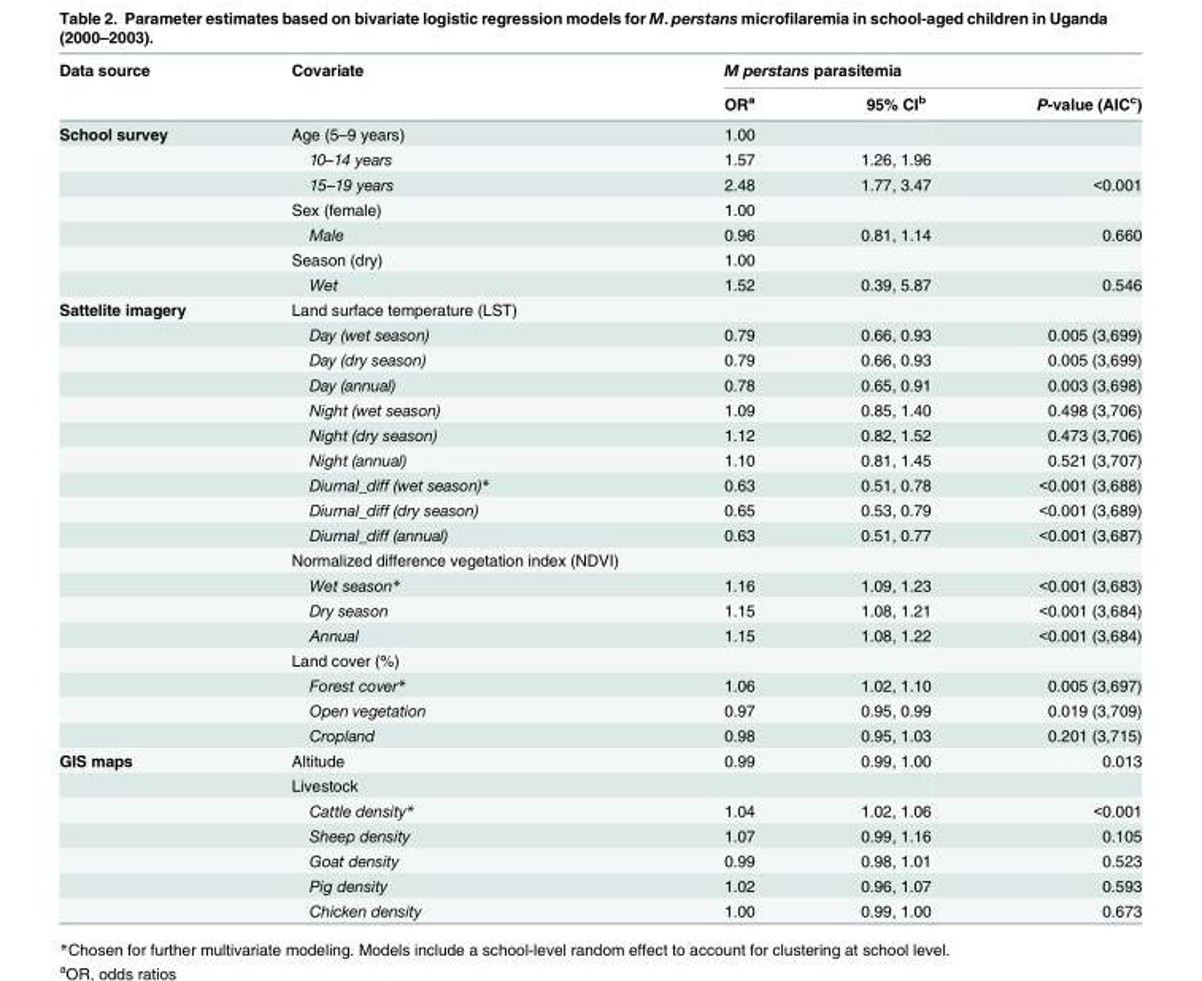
<table><thead><tr><td rowspan="2">Data source</td><td rowspan="2">Covariate</td><td colspan="3">M perstans parasitemia</td></tr><tr><td>OR<sup>a</sup></td><td>95% CI<sup>b</sup></td><td>P-value (AIC<sup>c</sup>)</td></tr></thead><tbody><tr><td rowspan="7">School survey</td><td>Age (5–9 years)</td><td>1.00</td><td></td><td></td></tr><tr><td>10–14 years</td><td>1.57</td><td>1.26, 1.96</td><td></td></tr><tr><td>15–19 years</td><td>2.48</td><td>1.77, 3.47</td><td>&lt;0.001</td></tr><tr><td>Sex (female)</td><td>1.00</td><td></td><td></td></tr><tr><td>Male</td><td>0.96</td><td>0.81, 1.14</td><td>0.660</td></tr><tr><td>Season (dry)</td><td>1.00</td><td></td><td></td></tr><tr><td>Wet</td><td>1.52</td><td>0.39, 5.87</td><td>0.546</td></tr><tr><td rowspan="18">Sattelite imagery</td><td>Land surface temperature (LST)</td><td></td><td></td><td></td></tr><tr><td>Day (wet season)</td><td>0.79</td><td>0.66, 0.93</td><td>0.005 (3,699)</td></tr><tr><td>Day (dry season)</td><td>0.79</td><td>0.66, 0.93</td><td>0.005 (3,699)</td></tr><tr><td>Day (annual)</td><td>0.78</td><td>0.65, 0.91</td><td>0.003 (3,698)</td></tr><tr><td>Night (wet season)</td><td>1.09</td><td>0.85, 1.40</td><td>0.498 (3,706)</td></tr><tr><td>Night (dry season)</td><td>1.12</td><td>0.82, 1.52</td><td>0.473 (3,706)</td></tr><tr><td>Night (annual)</td><td>1.10</td><td>0.81, 1.45</td><td>0.521 (3,707)</td></tr><tr><td>Diurnal_diff (wet season)*</td><td>0.63</td><td>0.51, 0.78</td><td>&lt;0.001 (3,688)</td></tr><tr><td>Diurnal_diff (dry season)</td><td>0.65</td><td>0.53, 0.79</td><td>&lt;0.001 (3,689)</td></tr><tr><td>Diurnal_diff (annual)</td><td>0.63</td><td>0.51, 0.77</td><td>&lt;0.001 (3,687)</td></tr><tr><td>Normalized difference vegetation index (NDVI)</td><td></td><td></td><td></td></tr><tr><td>Wet season*</td><td>1.16</td><td>1.09, 1.23</td><td>&lt;0.001 (3,683)</td></tr><tr><td>Dry season</td><td>1.15</td><td>1.08, 1.21</td><td>&lt;0.001 (3,684)</td></tr><tr><td>Annual</td><td>1.15</td><td>1.08, 1.22</td><td>&lt;0.001 (3,684)</td></tr><tr><td>Land cover (%)</td><td></td><td></td><td></td></tr><tr><td>Forest cover*</td><td>1.06</td><td>1.02, 1.10</td><td>0.005 (3,697)</td></tr><tr><td>Open vegetation</td><td>0.97</td><td>0.95, 0.99</td><td>0.019 (3,709)</td></tr><tr><td>Cropland</td><td>0.98</td><td>0.95, 1.03</td><td>0.201 (3,715)</td></tr><tr><td rowspan="7">GIS maps</td><td>Altitude</td><td>0.99</td><td>0.99, 1.00</td><td>0.013</td></tr><tr><td>Livestock</td><td></td><td></td><td></td></tr><tr><td>Cattle density*</td><td>1.04</td><td>1.02, 1.06</td><td>&lt;0.001</td></tr><tr><td>Sheep density</td><td>1.07</td><td>0.99, 1.16</td><td>0.105</td></tr><tr><td>Goat density</td><td>0.99</td><td>0.98, 1.01</td><td>0.523</td></tr><tr><td>Pig density</td><td>1.02</td><td>0.96, 1.07</td><td>0.593</td></tr><tr><td>Chicken density</td><td>1.00</td><td>0.99, 1.00</td><td>0.673</td></tr></tbody></table>